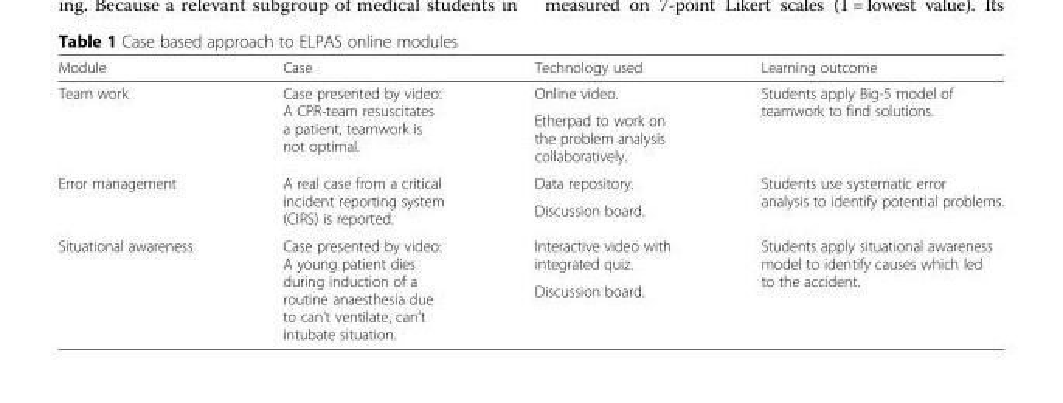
<table><thead><tr><td>Module</td><td>Case</td><td>Technology used</td><td>Learning outcome</td></tr></thead><tbody><tr><td rowspan="2">Team work</td><td rowspan="2">Case presented by video: A CPR-team resuscitates a patient, teamwork is not optimal.</td><td>Online video.</td><td rowspan="2">Students apply Big-5 model of teamwork to find solutions.</td></tr><tr><td>Etherpad to work on the problem analysis collaboratively.</td></tr><tr><td rowspan="2">Error management</td><td rowspan="2">A real case from a critical incident reporting system (CIRS) is reported.</td><td>Data repository.</td><td rowspan="2">Students use systematic error analysis to identify potential problems.</td></tr><tr><td>Discussion board.</td></tr><tr><td rowspan="2">Situational awareness</td><td rowspan="2">Case presented by video: A young patient dies during induction of a routine anaesthesia due to can’t ventilate, can’t intubate situation.</td><td>Interactive video with integrated quiz.</td><td rowspan="2">Students apply situational awareness model to identify causes which led to the accident.</td></tr><tr><td>Discussion board.</td></tr></tbody></table>